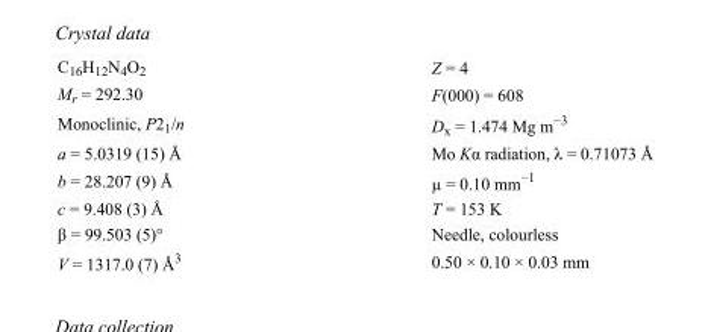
<table><tbody><tr><td>C<sub>16</sub>H<sub>12</sub>N<sub>4</sub>O<sub>2</sub></td><td>Z = 4</td></tr><tr><td>M<sub>r</sub> = 292.30</td><td>F(000) = 608</td></tr><tr><td>Monoclinic, P2<sub>1</sub>/n</td><td>D<sub>x</sub> = 1.474 Mg m<sup>−3</sup></td></tr><tr><td>a = 5.0319 (15) Å</td><td>Mo Kα radiation, λ = 0.71073 Å</td></tr><tr><td>b = 28.207 (9) Å</td><td>µ = 0.10 mm<sup>−1</sup></td></tr><tr><td>c = 9.408 (3) Å</td><td>T = 153 K</td></tr><tr><td>β = 99.503 (5)°</td><td>Needle, colourless</td></tr><tr><td>V = 1317.0 (7) Å<sup>3</sup></td><td>0.50 × 0.10 × 0.03 mm</td></tr></tbody></table>